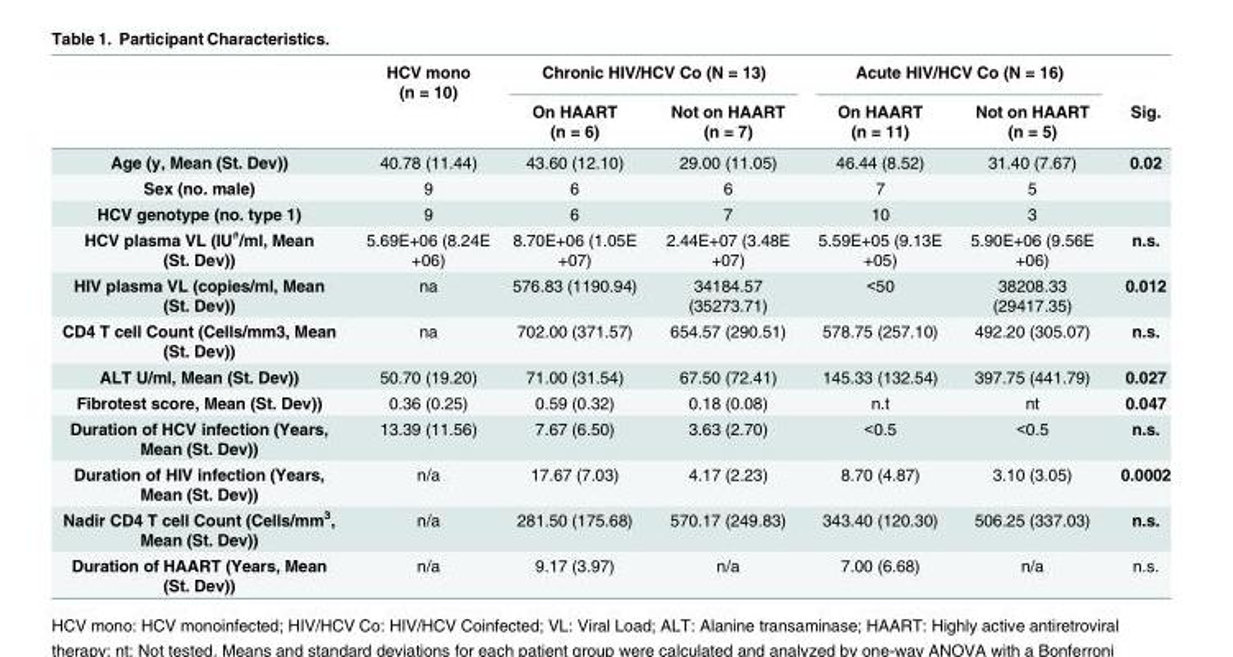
<table><thead><tr><td rowspan="2"></td><td rowspan="2">HCV mono (n = 10)</td><td colspan="2">Chronic HIV/HCV Co (N = 13)</td><td colspan="2">Acute HIV/HCV Co (N = 16)</td><td rowspan="2">Sig.</td></tr><tr><td>On HAART (n = 6)</td><td>Not on HAART (n = 7)</td><td>On HAART (n = 11)</td><td>Not on HAART (n = 5)</td></tr></thead><tbody><tr><td>Age (y, Mean (St. Dev))</td><td>40.78 (11.44)</td><td>43.60 (12.10)</td><td>29.00 (11.05)</td><td>46.44 (8.52)</td><td>31.40 (7.67)</td><td>0.02</td></tr><tr><td>Sex (no. male)</td><td>9</td><td>6</td><td>6</td><td>7</td><td>5</td><td></td></tr><tr><td>HCV genotype (no. type 1)</td><td>9</td><td>6</td><td>7</td><td>10</td><td>3</td><td></td></tr><tr><td>HCV plasma VL (IU<sup>#</sup>/ml, Mean (St. Dev))</td><td>5.69E+06 (8.24E +06)</td><td>8.70E+06 (1.05E +07)</td><td>2.44E+07 (3.48E +07)</td><td>5.59E+05 (9.13E +05)</td><td>5.90E+06 (9.56E +06)</td><td>n.s.</td></tr><tr><td>HIV plasma VL (copies/ml, Mean (St. Dev))</td><td>na</td><td>576.83 (1190.94)</td><td>34184.57 (35273.71)</td><td>&lt;50</td><td>38208.33 (29417.35)</td><td>0.012</td></tr><tr><td>CD4 T cell Count (Cells/mm3, Mean (St. Dev))</td><td>na</td><td>702.00 (371.57)</td><td>654.57 (290.51)</td><td>578.75 (257.10)</td><td>492.20 (305.07)</td><td>n.s.</td></tr><tr><td>ALT U/ml, Mean (St. Dev))</td><td>50.70 (19.20)</td><td>71.00 (31.54)</td><td>67.50 (72.41)</td><td>145.33 (132.54)</td><td>397.75 (441.79)</td><td>0.027</td></tr><tr><td>Fibrotest score, Mean (St. Dev))</td><td>0.36 (0.25)</td><td>0.59 (0.32)</td><td>0.18 (0.08)</td><td>n.t</td><td>nt</td><td>0.047</td></tr><tr><td>Duration of HCV infection (Years, Mean (St. Dev))</td><td>13.39 (11.56)</td><td>7.67 (6.50)</td><td>3.63 (2.70)</td><td>&lt;0.5</td><td>&lt;0.5</td><td>n.s.</td></tr><tr><td>Duration of HIV infection (Years, Mean (St. Dev))</td><td>n/a</td><td>17.67 (7.03)</td><td>4.17 (2.23)</td><td>8.70 (4.87)</td><td>3.10 (3.05)</td><td>0.0002</td></tr><tr><td>Nadir CD4 T cell Count (Cells/mm<sup>3</sup>, Mean (St. Dev))</td><td>n/a</td><td>281.50 (175.68)</td><td>570.17 (249.83)</td><td>343.40 (120.30)</td><td>506.25 (337.03)</td><td>n.s.</td></tr><tr><td>Duration of HAART (Years, Mean (St. Dev))</td><td>n/a</td><td>9.17 (3.97)</td><td>n/a</td><td>7.00 (6.68)</td><td>n/a</td><td>n.s.</td></tr></tbody></table>